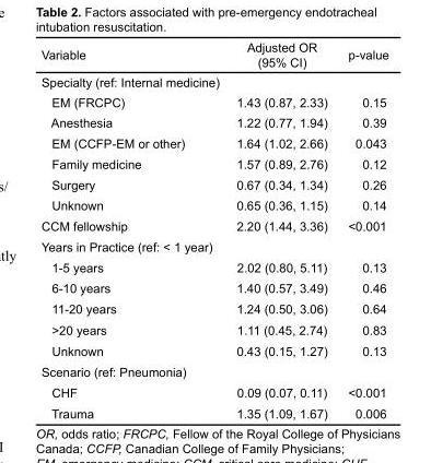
<table><thead><tr><td>Variable</td><td>Adjusted OR (95% CI)</td><td>p-value</td></tr></thead><tbody><tr><td colspan="3">Specialty (ref: Internal medicine)</td></tr><tr><td>EM (FRCPC)</td><td>1.43 (0.87, 2.33)</td><td>0.15</td></tr><tr><td>Anesthesia</td><td>1.22 (0.77, 1.94)</td><td>0.39</td></tr><tr><td>EM (CCFP-EM or other)</td><td>1.64 (1.02, 2.66)</td><td>0.043</td></tr><tr><td>Family medicine</td><td>1.57 (0.89, 2.76)</td><td>0.12</td></tr><tr><td>Surgery</td><td>0.67 (0.34, 1.34)</td><td>0.26</td></tr><tr><td>Unknown</td><td>0.65 (0.36, 1.15)</td><td>0.14</td></tr><tr><td>CCM fellowship</td><td>2.20 (1.44, 3.36)</td><td>&lt;0.001</td></tr><tr><td colspan="3">Years in Practice (ref: &lt; 1 year)</td></tr><tr><td>1-5 years</td><td>2.02 (0.80, 5.11)</td><td>0.13</td></tr><tr><td>6-10 years</td><td>1.40 (0.57, 3.49)</td><td>0.46</td></tr><tr><td>11-20 years</td><td>1.24 (0.50, 3.06)</td><td>0.64</td></tr><tr><td>&gt;20 years</td><td>1.11 (0.45, 2.74)</td><td>0.83</td></tr><tr><td>Unknown</td><td>0.43 (0.15, 1.27)</td><td>0.13</td></tr><tr><td colspan="3">Scenario (ref: Pneumonia)</td></tr><tr><td>CHF</td><td>0.09 (0.07, 0.11)</td><td>&lt;0.001</td></tr><tr><td>Trauma</td><td>1.35 (1.09, 1.67)</td><td>0.006</td></tr></tbody></table>